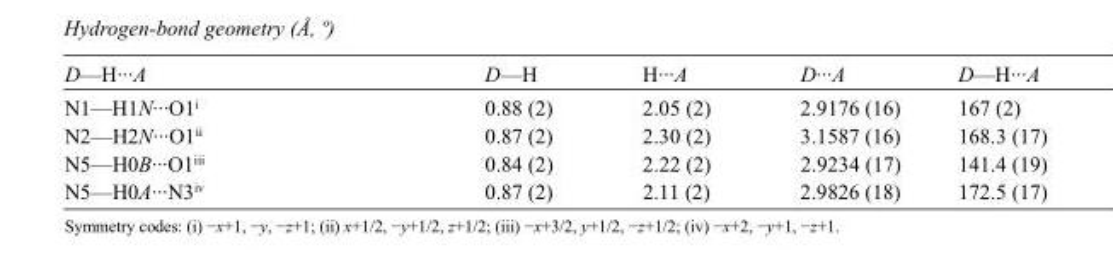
<table><tbody><tr><td>D—H···A</td><td>D—H</td><td>H···A</td><td>D···A</td><td>D—H···A</td></tr><tr><td>N1—H1N···O1<sup>i</sup></td><td>0.88 (2)</td><td>2.05 (2)</td><td>2.9176 (16)</td><td>167 (2)</td></tr><tr><td>N2—H2N···O1<sup>ii</sup></td><td>0.87 (2)</td><td>2.30 (2)</td><td>3.1587 (16)</td><td>168.3 (17)</td></tr><tr><td>N5—H0B···O1<sup>iii</sup></td><td>0.84 (2)</td><td>2.22 (2)</td><td>2.9234 (17)</td><td>141.4 (19)</td></tr><tr><td>N5—H0A···N3<sup>iv</sup></td><td>0.87 (2)</td><td>2.11 (2)</td><td>2.9826 (18)</td><td>172.5 (17)</td></tr></tbody></table>